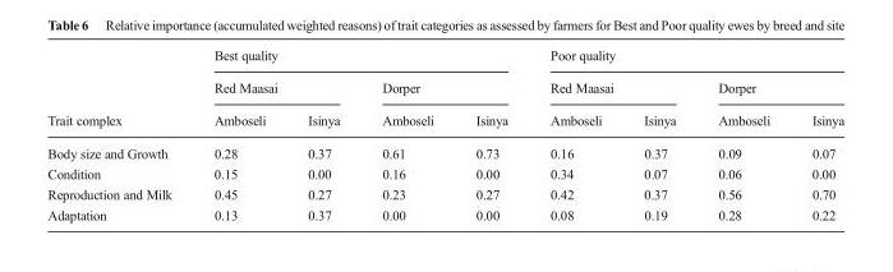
<table><thead><tr><td rowspan="3">Trait complex</td><td colspan="4">Best quality</td><td colspan="4">Poor quality</td></tr><tr><td colspan="2">Red Maasai</td><td colspan="2">Dorper</td><td colspan="2">Red Maasai</td><td colspan="2">Dorper</td></tr><tr><td>Amboseli</td><td>Isinya</td><td>Amboseli</td><td>Isinya</td><td>Amboseli</td><td>Isinya</td><td>Amboseli</td><td>Isinya</td></tr></thead><tbody><tr><td>Body size and Growth</td><td>0.28</td><td>0.37</td><td>0.61</td><td>0.73</td><td>0.16</td><td>0.37</td><td>0.09</td><td>0.07</td></tr><tr><td>Condition</td><td>0.15</td><td>0.00</td><td>0.16</td><td>0.00</td><td>0.34</td><td>0.07</td><td>0.06</td><td>0.00</td></tr><tr><td>Reproduction and Milk</td><td>0.45</td><td>0.27</td><td>0.23</td><td>0.27</td><td>0.42</td><td>0.37</td><td>0.56</td><td>0.70</td></tr><tr><td>Adaptation</td><td>0.13</td><td>0.37</td><td>0.00</td><td>0.00</td><td>0.08</td><td>0.19</td><td>0.28</td><td>0.22</td></tr></tbody></table>